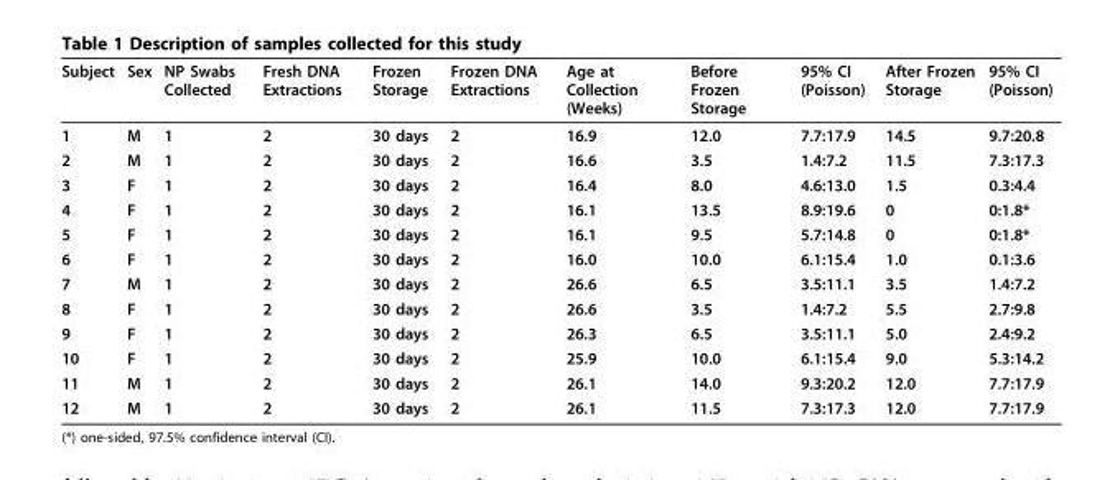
<table><thead><tr><td>Subject</td><td>Sex</td><td>NP Swabs Collected</td><td>Fresh DNA Extractions</td><td>Frozen Storage</td><td>Frozen DNA Extractions</td><td>Age at Collection (Weeks)</td><td>Before Frozen Storage</td><td>95% CI (Poisson)</td><td>After Frozen Storage</td><td>95% CI (Poisson)</td></tr></thead><tbody><tr><td>1</td><td>M</td><td>1</td><td>2</td><td>30 days</td><td>2</td><td>16.9</td><td>12.0</td><td>7.7:17.9</td><td>14.5</td><td>9.7:20.8</td></tr><tr><td>2</td><td>M</td><td>1</td><td>2</td><td>30 days</td><td>2</td><td>16.6</td><td>3.5</td><td>1.4:7.2</td><td>11.5</td><td>7.3:17.3</td></tr><tr><td>3</td><td>F</td><td>1</td><td>2</td><td>30 days</td><td>2</td><td>16.4</td><td>8.0</td><td>4.6:13.0</td><td>1.5</td><td>0.3:4.4</td></tr><tr><td>4</td><td>F</td><td>1</td><td>2</td><td>30 days</td><td>2</td><td>16.1</td><td>13.5</td><td>8.9:19.6</td><td>0</td><td>0:1.8*</td></tr><tr><td>5</td><td>F</td><td>1</td><td>2</td><td>30 days</td><td>2</td><td>16.1</td><td>9.5</td><td>5.7:14.8</td><td>0</td><td>0:1.8*</td></tr><tr><td>6</td><td>F</td><td>1</td><td>2</td><td>30 days</td><td>2</td><td>16.0</td><td>10.0</td><td>6.1:15.4</td><td>1.0</td><td>0.1:3.6</td></tr><tr><td>7</td><td>M</td><td>1</td><td>2</td><td>30 days</td><td>2</td><td>26.6</td><td>6.5</td><td>3.5:11.1</td><td>3.5</td><td>1.4:7.2</td></tr><tr><td>8</td><td>F</td><td>1</td><td>2</td><td>30 days</td><td>2</td><td>26.6</td><td>3.5</td><td>1.4:7.2</td><td>5.5</td><td>2.7:9.8</td></tr><tr><td>9</td><td>F</td><td>1</td><td>2</td><td>30 days</td><td>2</td><td>26.3</td><td>6.5</td><td>3.5:11.1</td><td>5.0</td><td>2.4:9.2</td></tr><tr><td>10</td><td>F</td><td>1</td><td>2</td><td>30 days</td><td>2</td><td>25.9</td><td>10.0</td><td>6.1:15.4</td><td>9.0</td><td>5.3:14.2</td></tr><tr><td>11</td><td>M</td><td>1</td><td>2</td><td>30 days</td><td>2</td><td>26.1</td><td>14.0</td><td>9.3:20.2</td><td>12.0</td><td>7.7:17.9</td></tr><tr><td>12</td><td>M</td><td>1</td><td>2</td><td>30 days</td><td>2</td><td>26.1</td><td>11.5</td><td>7.3:17.3</td><td>12.0</td><td>7.7:17.9</td></tr></tbody></table>